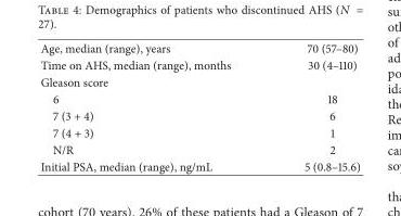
<table><tbody><tr><td>Age, median (range), years</td><td>70 (57–80)</td></tr><tr><td>Time on AHS, median (range), months</td><td>30 (4–110)</td></tr><tr><td colspan="2">Gleason score</td></tr><tr><td>6</td><td>18</td></tr><tr><td>7 (3 + 4)</td><td>6</td></tr><tr><td>7 (4 + 3)</td><td>1</td></tr><tr><td>N/R</td><td>2</td></tr><tr><td>Initial PSA, median (range), ng/mL</td><td>5 (0.8–15.6)</td></tr></tbody></table>